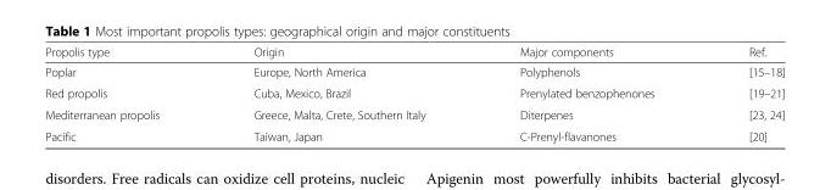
<table><thead><tr><td>Propolis type</td><td>Origin</td><td>Major components</td><td>Ref.</td></tr></thead><tbody><tr><td>Poplar</td><td>Europe, North America</td><td>Polyphenols</td><td>[15–18]</td></tr><tr><td>Red propolis</td><td>Cuba, Mexico, Brazil</td><td>Prenylated benzophenones</td><td>[19–21]</td></tr><tr><td>Mediterranean propolis</td><td>Greece, Malta, Crete, Southern Italy</td><td>Diterpenes</td><td>[23, 24]</td></tr><tr><td>Pacific</td><td>Taiwan, Japan</td><td>C-Prenyl-flavanones</td><td>[20]</td></tr></tbody></table>